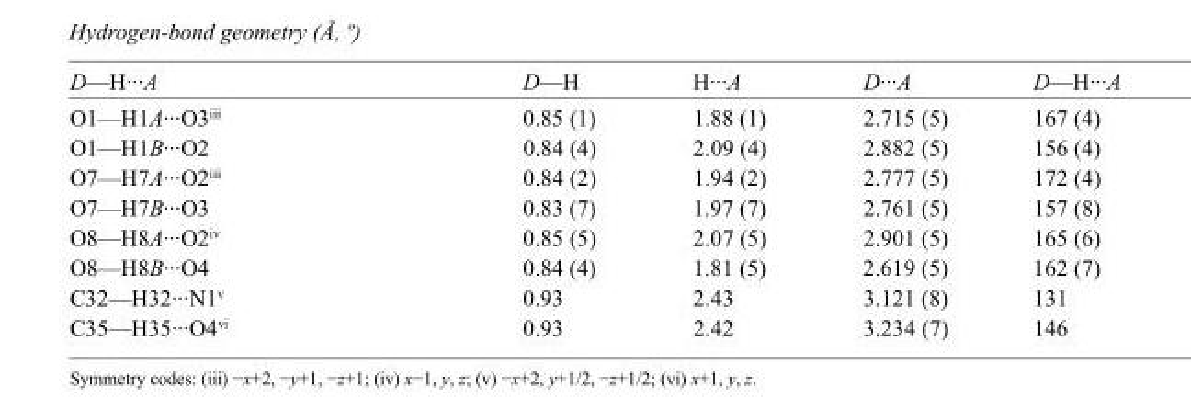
<table><tbody><tr><td>D—H···A</td><td>D—H</td><td>H···A</td><td>D···A</td><td>D—H···A</td></tr><tr><td>O1—H1A···O3<sup>iii</sup></td><td>0.85 (1)</td><td>1.88 (1)</td><td>2.715 (5)</td><td>167 (4)</td></tr><tr><td>O1—H1B···O2</td><td>0.84 (4)</td><td>2.09 (4)</td><td>2.882 (5)</td><td>156 (4)</td></tr><tr><td>O7—H7A···O2<sup>iii</sup></td><td>0.84 (2)</td><td>1.94 (2)</td><td>2.777 (5)</td><td>172 (4)</td></tr><tr><td>O7—H7B···O3</td><td>0.83 (7)</td><td>1.97 (7)</td><td>2.761 (5)</td><td>157 (8)</td></tr><tr><td>O8—H8A···O2<sup>iv</sup></td><td>0.85 (5)</td><td>2.07 (5)</td><td>2.901 (5)</td><td>165 (6)</td></tr><tr><td>O8—H8B···O4</td><td>0.84 (4)</td><td>1.81 (5)</td><td>2.619 (5)</td><td>162 (7)</td></tr><tr><td>C32—H32···N1<sup>v</sup></td><td>0.93</td><td>2.43</td><td>3.121 (8)</td><td>131</td></tr><tr><td>C35—H35···O4<sup>vi</sup></td><td>0.93</td><td>2.42</td><td>3.234 (7)</td><td>146</td></tr></tbody></table>